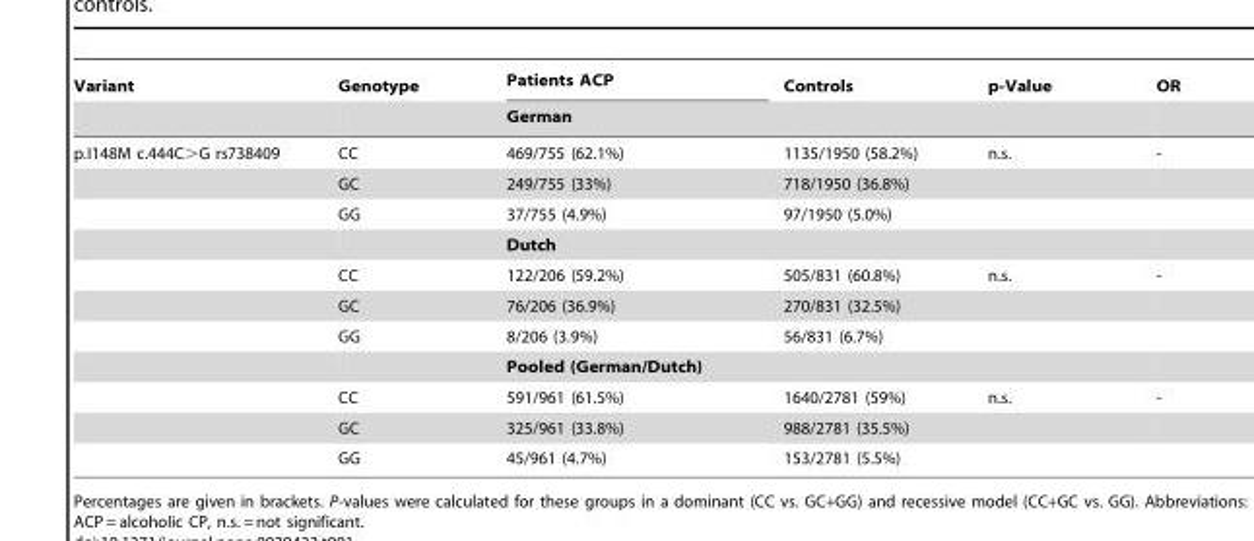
<table><thead><tr><td rowspan="2">Variant</td><td rowspan="2">Genotype</td><td>Patients ACP</td><td>Controls</td><td rowspan="2">p-Value</td><td rowspan="2">OR</td></tr><tr><td colspan="2">German</td></tr></thead><tbody><tr><td rowspan="11">p.I148M c.444C&gt;G rs738409</td><td>CC</td><td>469/755 (62.1%)</td><td>1135/1950 (58.2%)</td><td>n.s.</td><td>-</td></tr><tr><td>GC</td><td>249/755 (33%)</td><td>718/1950 (36.8%)</td><td></td><td></td></tr><tr><td>GG</td><td>37/755 (4.9%)</td><td>97/1950 (5.0%)</td><td></td><td></td></tr><tr><td></td><td colspan="2">Dutch</td><td></td><td></td></tr><tr><td>CC</td><td>122/206 (59.2%)</td><td>505/831 (60.8%)</td><td>n.s.</td><td>-</td></tr><tr><td>GC</td><td>76/206 (36.9%)</td><td>270/831 (32.5%)</td><td></td><td></td></tr><tr><td>GG</td><td>8/206 (3.9%)</td><td>56/831 (6.7%)</td><td></td><td></td></tr><tr><td></td><td colspan="2">Pooled (German/Dutch)</td><td></td><td></td></tr><tr><td>CC</td><td>591/961 (61.5%)</td><td>1640/2781 (59%)</td><td>n.s.</td><td>-</td></tr><tr><td>GC</td><td>325/961 (33.8%)</td><td>988/2781 (35.5%)</td><td></td><td></td></tr><tr><td>GG</td><td>45/961 (4.7%)</td><td>153/2781 (5.5%)</td><td></td><td></td></tr></tbody></table>